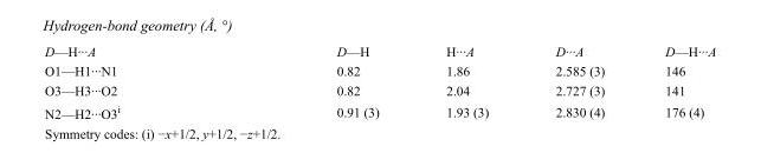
<table><tbody><tr><td>D—H···A</td><td>D—H</td><td>H···A</td><td>D···A</td><td>D—H···A</td></tr><tr><td>O1—H1···N1</td><td>0.82</td><td>1.86</td><td>2.585 (3)</td><td>146</td></tr><tr><td>O3—H3···O2</td><td>0.82</td><td>2.04</td><td>2.727 (3)</td><td>141</td></tr><tr><td>N2—H2···O3<sup>i</sup></td><td>0.91 (3)</td><td>1.93 (3)</td><td>2.830 (4)</td><td>176 (4)</td></tr></tbody></table>